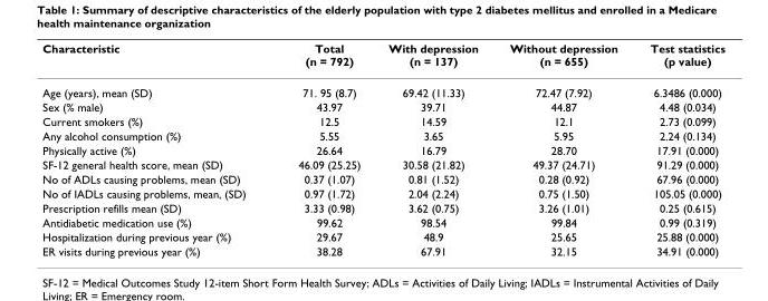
<table><thead><tr><td>Characteristic</td><td>Total (n = 792)</td><td>With depression (n = 137)</td><td>Without depression (n = 655)</td><td>Test statistics (p value)</td></tr></thead><tbody><tr><td>Age (years), mean (SD)</td><td>71. 95 (8.7)</td><td>69.42 (11.33)</td><td>72.47 (7.92)</td><td>6.3486 (0.000)</td></tr><tr><td>Sex (% male)</td><td>43.97</td><td>39.71</td><td>44.87</td><td>4.48 (0.034)</td></tr><tr><td>Current smokers (%)</td><td>12.5</td><td>14.59</td><td>12.1</td><td>2.73 (0.099)</td></tr><tr><td>Any alcohol consumption (%)</td><td>5.55</td><td>3.65</td><td>5.95</td><td>2.24 (0.134)</td></tr><tr><td>Physically active (%)</td><td>26.64</td><td>16.79</td><td>28.70</td><td>17.91 (0.000)</td></tr><tr><td>SF-12 general health score, mean (SD)</td><td>46.09 (25.25)</td><td>30.58 (21.82)</td><td>49.37 (24.71)</td><td>91.29 (0.000)</td></tr><tr><td>No of ADLs causing problems, mean (SD)</td><td>0.37 (1.07)</td><td>0.81 (1.52)</td><td>0.28 (0.92)</td><td>67.96 (0.000)</td></tr><tr><td>No of IADLs causing problems, mean, (SD)</td><td>0.97 (1.72)</td><td>2.04 (2.24)</td><td>0.75 (1.50)</td><td>105.05 (0.000)</td></tr><tr><td>Prescription refills mean (SD)</td><td>3.33 (0.98)</td><td>3.62 (0.75)</td><td>3.26 (1.01)</td><td>0.25 (0.615)</td></tr><tr><td>Antidiabetic medication use (%)</td><td>99.62</td><td>98.54</td><td>99.84</td><td>0.99 (0.319)</td></tr><tr><td>Hospitalization during previous year (%)</td><td>29.67</td><td>48.9</td><td>25.65</td><td>25.88 (0.000)</td></tr><tr><td>ER visits during previous year (%)</td><td>38.28</td><td>67.91</td><td>32.15</td><td>34.91 (0.000)</td></tr></tbody></table>